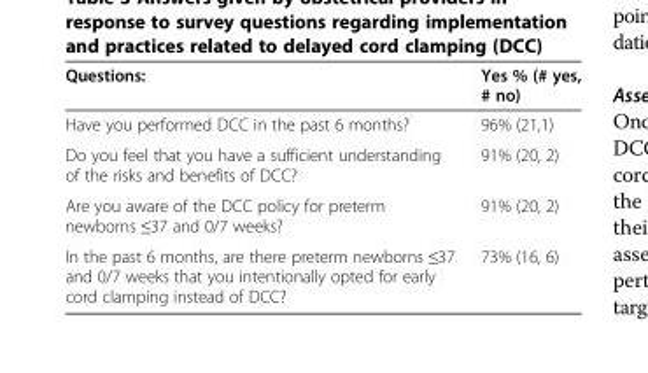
<table><thead><tr><td>Questions:</td><td>Yes % (# yes, # no)</td></tr></thead><tbody><tr><td>Have you performed DCC in the past 6 months?</td><td>96% (21,1)</td></tr><tr><td>Do you feel that you have a sufficient understanding of the risks and benefits of DCC?</td><td>91% (20, 2)</td></tr><tr><td>Are you aware of the DCC policy for preterm newborns ≤37 and 0/7 weeks?</td><td>91% (20, 2)</td></tr><tr><td>In the past 6 months, are there preterm newborns ≤37 and 0/7 weeks that you intentionally opted for early cord clamping instead of DCC?</td><td>73% (16, 6)</td></tr></tbody></table>